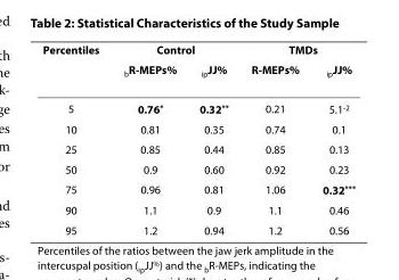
<table><thead><tr><td rowspan="2">Percentiles</td><td colspan="2">Control</td><td colspan="2">TMDs</td></tr><tr><td><sub>b</sub>R-MEPs%</td><td><sub>ip</sub>JJ%</td><td>R-MEPs%</td><td><sub>ip</sub>JJ%</td></tr></thead><tbody><tr><td>5</td><td>0.76*</td><td>0.32**</td><td>0.21</td><td>5.1<sup>-2</sup></td></tr><tr><td>10</td><td>0.81</td><td>0.35</td><td>0.74</td><td>0.1</td></tr><tr><td>25</td><td>0.85</td><td>0.44</td><td>0.85</td><td>0.13</td></tr><tr><td>50</td><td>0.9</td><td>0.60</td><td>0.92</td><td>0.23</td></tr><tr><td>75</td><td>0.96</td><td>0.81</td><td>1.06</td><td>0.32***</td></tr><tr><td>90</td><td>1.1</td><td>0.9</td><td>1.1</td><td>0.46</td></tr><tr><td>95</td><td>1.2</td><td>0.94</td><td>1.2</td><td>0.56</td></tr></tbody></table>